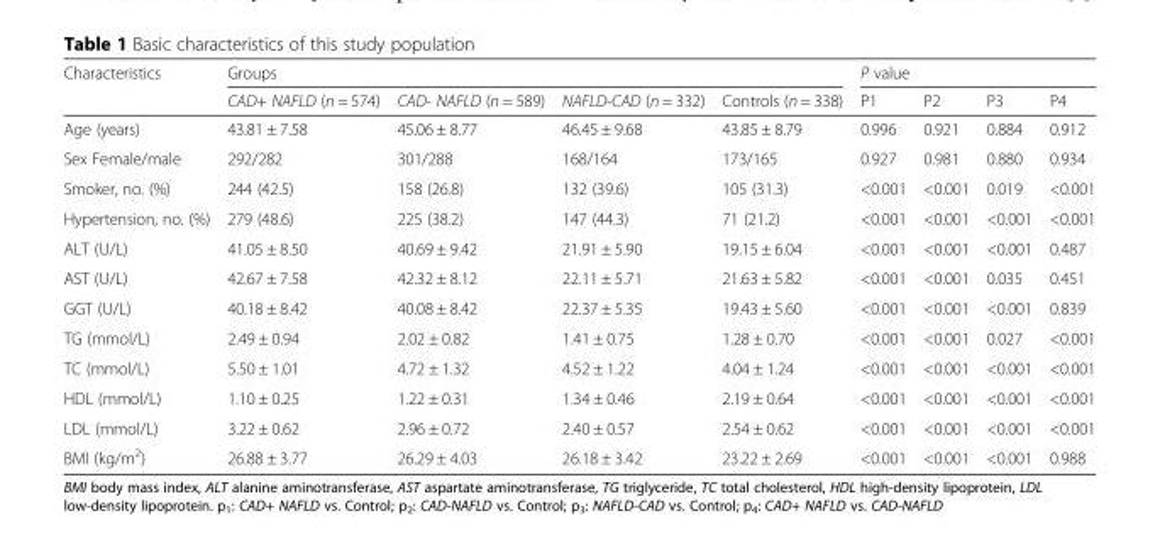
<table><thead><tr><td rowspan="2">Characteristics</td><td colspan="4">Groups</td><td colspan="4">P value</td></tr><tr><td>CAD+ NAFLD (n = 574)</td><td>CAD- NAFLD (n = 589)</td><td>NAFLD-CAD (n = 332)</td><td>Controls (n = 338)</td><td>P1</td><td>P2</td><td>P3</td><td>P4</td></tr></thead><tbody><tr><td>Age (years)</td><td>43.81 ± 7.58</td><td>45.06 ± 8.77</td><td>46.45 ± 9.68</td><td>43.85 ± 8.79</td><td>0.996</td><td>0.921</td><td>0.884</td><td>0.912</td></tr><tr><td>Sex Female/male</td><td>292/282</td><td>301/288</td><td>168/164</td><td>173/165</td><td>0.927</td><td>0.981</td><td>0.880</td><td>0.934</td></tr><tr><td>Smoker, no. (%)</td><td>244 (42.5)</td><td>158 (26.8)</td><td>132 (39.6)</td><td>105 (31.3)</td><td>&lt;0.001</td><td>&lt;0.001</td><td>0.019</td><td>&lt;0.001</td></tr><tr><td>Hypertension, no. (%)</td><td>279 (48.6)</td><td>225 (38.2)</td><td>147 (44.3)</td><td>71 (21.2)</td><td>&lt;0.001</td><td>&lt;0.001</td><td>&lt;0.001</td><td>&lt;0.001</td></tr><tr><td>ALT (U/L)</td><td>41.05 ± 8.50</td><td>40.69 ± 9.42</td><td>21.91 ± 5.90</td><td>19.15 ± 6.04</td><td>&lt;0.001</td><td>&lt;0.001</td><td>&lt;0.001</td><td>0.487</td></tr><tr><td>AST (U/L)</td><td>42.67 ± 7.58</td><td>42.32 ± 8.12</td><td>22.11 ± 5.71</td><td>21.63 ± 5.82</td><td>&lt;0.001</td><td>&lt;0.001</td><td>0.035</td><td>0.451</td></tr><tr><td>GGT (U/L)</td><td>40.18 ± 8.42</td><td>40.08 ± 8.42</td><td>22.37 ± 5.35</td><td>19.43 ± 5.60</td><td>&lt;0.001</td><td>&lt;0.001</td><td>&lt;0.001</td><td>0.839</td></tr><tr><td>TG (mmol/L)</td><td>2.49 ± 0.94</td><td>2.02 ± 0.82</td><td>1.41 ± 0.75</td><td>1.28 ± 0.70</td><td>&lt;0.001</td><td>&lt;0.001</td><td>0.027</td><td>&lt;0.001</td></tr><tr><td>TC (mmol/L)</td><td>5.50 ± 1.01</td><td>4.72 ± 1.32</td><td>4.52 ± 1.22</td><td>4.04 ± 1.24</td><td>&lt;0.001</td><td>&lt;0.001</td><td>&lt;0.001</td><td>&lt;0.001</td></tr><tr><td>HDL (mmol/L)</td><td>1.10 ± 0.25</td><td>1.22 ± 0.31</td><td>1.34 ± 0.46</td><td>2.19 ± 0.64</td><td>&lt;0.001</td><td>&lt;0.001</td><td>&lt;0.001</td><td>&lt;0.001</td></tr><tr><td>LDL (mmol/L)</td><td>3.22 ± 0.62</td><td>2.96 ± 0.72</td><td>2.40 ± 0.57</td><td>2.54 ± 0.62</td><td>&lt;0.001</td><td>&lt;0.001</td><td>&lt;0.001</td><td>&lt;0.001</td></tr><tr><td>BMI (kg/m<sup>2</sup>)</td><td>26.88 ± 3.77</td><td>26.29 ± 4.03</td><td>26.18 ± 3.42</td><td>23.22 ± 2.69</td><td>&lt;0.001</td><td>&lt;0.001</td><td>&lt;0.001</td><td>0.988</td></tr></tbody></table>